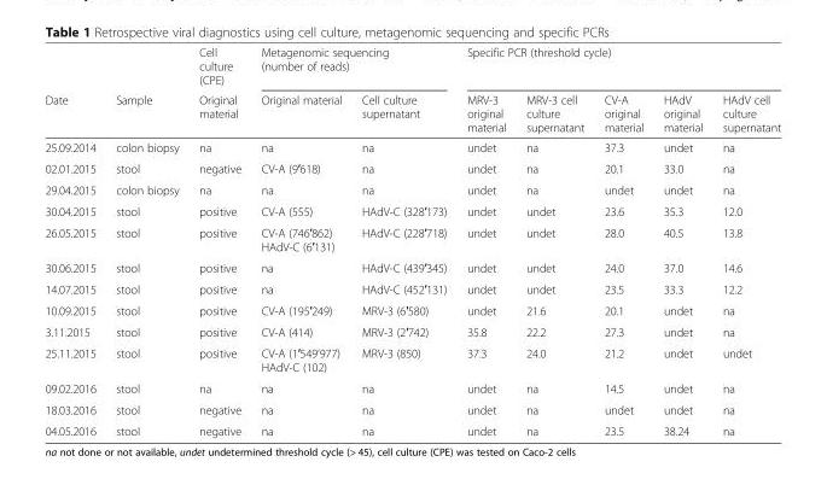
<table><thead><tr><td rowspan="2">Date</td><td rowspan="2">Sample</td><td rowspan="2">Cell culture (CPE) Original material</td><td colspan="2">Metagenomic sequencing (number of reads)</td><td colspan="5">Specific PCR (threshold cycle)</td></tr><tr><td>Original material</td><td>Cell culture supernatant</td><td>MRV-3 original material</td><td>MRV-3 cell culture supernatant</td><td>CV-A original material</td><td>HAdV original material</td><td>HAdV cell culture supernatant</td></tr></thead><tbody><tr><td>25.09.2014</td><td>colon biopsy</td><td>na</td><td>na</td><td>na</td><td>undet</td><td>na</td><td>37.3</td><td>undet</td><td>na</td></tr><tr><td>02.01.2015</td><td>stool</td><td>negative</td><td>CV-A (9′618)</td><td>na</td><td>undet</td><td>na</td><td>20.1</td><td>33.0</td><td>na</td></tr><tr><td>29.04.2015</td><td>colon biopsy</td><td>na</td><td>na</td><td>na</td><td>undet</td><td>na</td><td>undet</td><td>undet</td><td>na</td></tr><tr><td>30.04.2015</td><td>stool</td><td>positive</td><td>CV-A (555)</td><td>HAdV-C (328′173)</td><td>undet</td><td>undet</td><td>23.6</td><td>35.3</td><td>12.0</td></tr><tr><td>26.05.2015</td><td>stool</td><td>positive</td><td>CV-A (746′862) HAdV-C (6′131)</td><td>HAdV-C (228′718)</td><td>undet</td><td>undet</td><td>28.0</td><td>40.5</td><td>13.8</td></tr><tr><td>30.06.2015</td><td>stool</td><td>positive</td><td>na</td><td>HAdV-C (439′345)</td><td>undet</td><td>undet</td><td>24.0</td><td>37.0</td><td>14.6</td></tr><tr><td>14.07.2015</td><td>stool</td><td>positive</td><td>na</td><td>HAdV-C (452′131)</td><td>undet</td><td>undet</td><td>23.5</td><td>33.3</td><td>12.2</td></tr><tr><td>10.09.2015</td><td>stool</td><td>positive</td><td>CV-A (195′249)</td><td>MRV-3 (6′580)</td><td>undet</td><td>21.6</td><td>20.1</td><td>undet</td><td>na</td></tr><tr><td>3.11.2015</td><td>stool</td><td>positive</td><td>CV-A (414)</td><td>MRV-3 (2′742)</td><td>35.8</td><td>22.2</td><td>27.3</td><td>undet</td><td>na</td></tr><tr><td>25.11.2015</td><td>stool</td><td>positive</td><td>CV-A (1′549’977) HAdV-C (102)</td><td>MRV-3 (850)</td><td>37.3</td><td>24.0</td><td>21.2</td><td>undet</td><td>undet</td></tr><tr><td>09.02.2016</td><td>stool</td><td>na</td><td>na</td><td>na</td><td>undet</td><td>na</td><td>14.5</td><td>undet</td><td>na</td></tr><tr><td>18.03.2016</td><td>stool</td><td>negative</td><td>na</td><td>na</td><td>undet</td><td>na</td><td>undet</td><td>undet</td><td>na</td></tr><tr><td>04.05.2016</td><td>stool</td><td>negative</td><td>na</td><td>na</td><td>undet</td><td>na</td><td>23.5</td><td>38.24</td><td>na</td></tr></tbody></table>